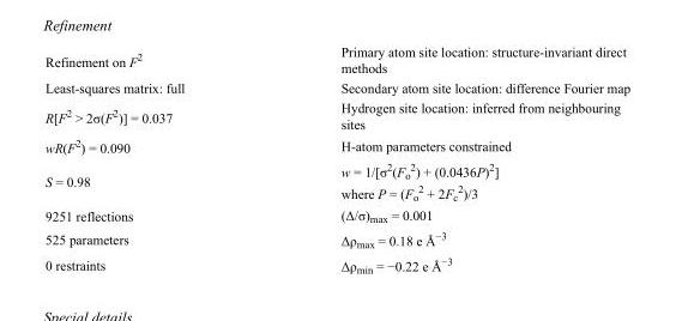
<table><tbody><tr><td>Refinement on F<sup>2</sup></td><td>Primary atom site location: structure-invariant direct methods</td></tr><tr><td>Least-squares matrix: full</td><td>Secondary atom site location: difference Fourier map</td></tr><tr><td>R[F<sup>2</sup> &gt; 2σ(F<sup>2</sup>)] = 0.037</td><td>Hydrogen site location: inferred from neighbouring sites</td></tr><tr><td>wR(F<sup>2</sup>) = 0.090</td><td>H-atom parameters constrained</td></tr><tr><td>S = 0.98</td><td>w = 1/[σ<sup>2</sup>(F<sub>o</sub> <sup>2</sup>) + (0.0436P)<sup>2</sup>] where P = (F<sub>o</sub> <sup>2</sup> + 2F<sub>c</sub> <sup>2</sup>)/3</td></tr><tr><td>9251 reflections</td><td>(Δ/σ)<sub>max</sub> = 0.001</td></tr><tr><td>525 parameters</td><td>Δρ<sub>max</sub> = 0.18 e Å<sup>−3</sup></td></tr><tr><td>0 restraints</td><td>Δρ<sub>min</sub> = −0.22 e Å<sup>−3</sup></td></tr></tbody></table>